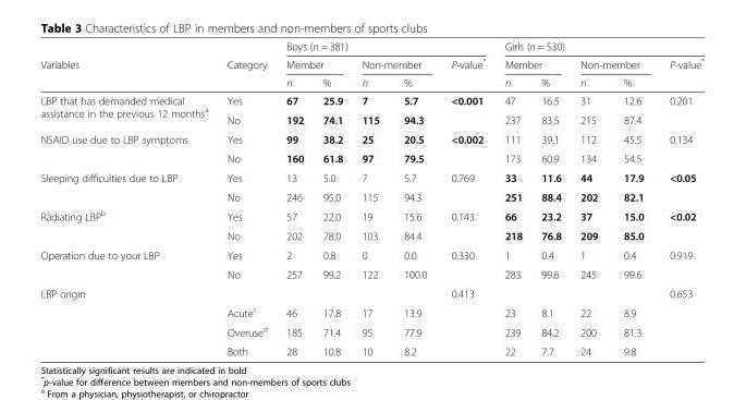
<table><thead><tr><td rowspan="3">Variables</td><td rowspan="3">Category</td><td colspan="5">Boys (n = 381)</td><td colspan="5">Girls (n = 530)</td></tr><tr><td colspan="2">Member</td><td colspan="2">Non-member</td><td rowspan="2">P-value*</td><td colspan="2">Member</td><td colspan="2">Non-member</td><td rowspan="2">P-value*</td></tr><tr><td>n</td><td>%</td><td>n</td><td>%</td><td>n</td><td>%</td><td>n</td><td>%</td></tr></thead><tbody><tr><td rowspan="2">LBP that has demanded medical assistance in the previous 12 months<sup>a</sup></td><td>Yes</td><td>67</td><td>25.9</td><td>7</td><td>5.7</td><td>&lt;0.001</td><td>47</td><td>16.5</td><td>31</td><td>12.6</td><td>0.201</td></tr><tr><td>No</td><td>192</td><td>74.1</td><td>115</td><td>94.3</td><td></td><td>237</td><td>83.5</td><td>215</td><td>87.4</td><td></td></tr><tr><td rowspan="2">NSAID use due to LBP symptoms</td><td>Yes</td><td>99</td><td>38.2</td><td>25</td><td>20.5</td><td>&lt;0.002</td><td>111</td><td>39.1</td><td>112</td><td>45.5</td><td>0.134</td></tr><tr><td>No</td><td>160</td><td>61.8</td><td>97</td><td>79.5</td><td></td><td>173</td><td>60.9</td><td>134</td><td>54.5</td><td></td></tr><tr><td rowspan="2">Sleeping difficulties due to LBP</td><td>Yes</td><td>13</td><td>5.0</td><td>7</td><td>5.7</td><td>0.769</td><td>33</td><td>11.6</td><td>44</td><td>17.9</td><td>&lt;0.05</td></tr><tr><td>No</td><td>246</td><td>95.0</td><td>115</td><td>94.3</td><td></td><td>251</td><td>88.4</td><td>202</td><td>82.1</td><td></td></tr><tr><td rowspan="2">Radiating LBP<sup>b</sup></td><td>Yes</td><td>57</td><td>22.0</td><td>19</td><td>15.6</td><td>0.143</td><td>66</td><td>23.2</td><td>37</td><td>15.0</td><td>&lt;0.02</td></tr><tr><td>No</td><td>202</td><td>78.0</td><td>103</td><td>84.4</td><td></td><td>218</td><td>76.8</td><td>209</td><td>85.0</td><td></td></tr><tr><td rowspan="2">Operation due to your LBP</td><td>Yes</td><td>2</td><td>0.8</td><td>0</td><td>0.0</td><td>0.330</td><td>1</td><td>0.4</td><td>1</td><td>0.4</td><td>0.919</td></tr><tr><td>No</td><td>257</td><td>99.2</td><td>122</td><td>100.0</td><td></td><td>283</td><td>99.6</td><td>245</td><td>99.6</td><td></td></tr><tr><td rowspan="4">LBP origin</td><td></td><td></td><td></td><td></td><td></td><td>0.413</td><td></td><td></td><td></td><td></td><td>0.653</td></tr><tr><td>Acute<sup>c</sup></td><td>46</td><td>17.8</td><td>17</td><td>13.9</td><td></td><td>23</td><td>8.1</td><td>22</td><td>8.9</td><td></td></tr><tr><td>Overuse<sup>d</sup></td><td>185</td><td>71.4</td><td>95</td><td>77.9</td><td></td><td>239</td><td>84.2</td><td>200</td><td>81.3</td><td></td></tr><tr><td>Both</td><td>28</td><td>10.8</td><td>10</td><td>8.2</td><td></td><td>22</td><td>7.7</td><td>24</td><td>9.8</td><td></td></tr></tbody></table>